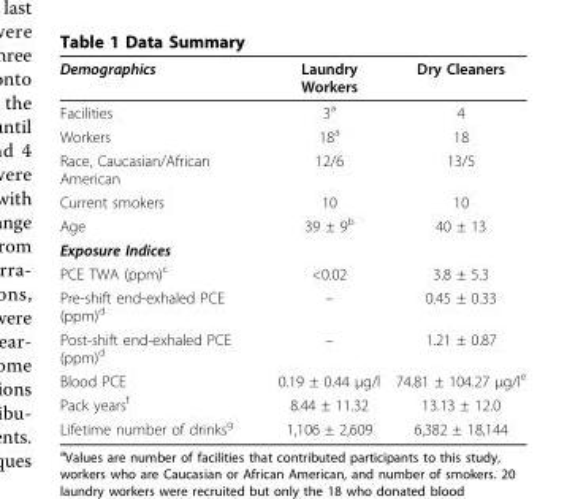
<table><thead><tr><td>Demographics</td><td>Laundry Workers</td><td>Dry Cleaners</td></tr></thead><tbody><tr><td>Facilities</td><td>3<sup>a</sup></td><td>4</td></tr><tr><td>Workers</td><td>18<sup>a</sup></td><td>18</td></tr><tr><td>Race, Caucasian/African American</td><td>12/6</td><td>13/5</td></tr><tr><td>Current smokers</td><td>10</td><td>10</td></tr><tr><td>Age</td><td>39 ± 9<sup>b</sup></td><td>40 ± 13</td></tr><tr><td colspan="3">Exposure Indices</td></tr><tr><td>PCE TWA (ppm)<sup>c</sup></td><td>&lt;0.02</td><td>3.8 ± 5.3</td></tr><tr><td>Pre-shift end-exhaled PCE (ppm)<sup>d</sup></td><td>–</td><td>0.45 ± 0.33</td></tr><tr><td>Post-shift end-exhaled PCE (ppm)<sup>d</sup></td><td>–</td><td>1.21 ± 0.87</td></tr><tr><td>Blood PCE</td><td>0.19 ± 0.44 μg/l</td><td>74.81 ± 104.27 μg/l<sup>e</sup></td></tr><tr><td>Pack years<sup>f</sup></td><td>8.44 ± 11.32</td><td>13.13 ± 12.0</td></tr><tr><td>Lifetime number of drinks<sup>g</sup></td><td>1,106 ± 2,609</td><td>6,382 ± 18,144</td></tr></tbody></table>